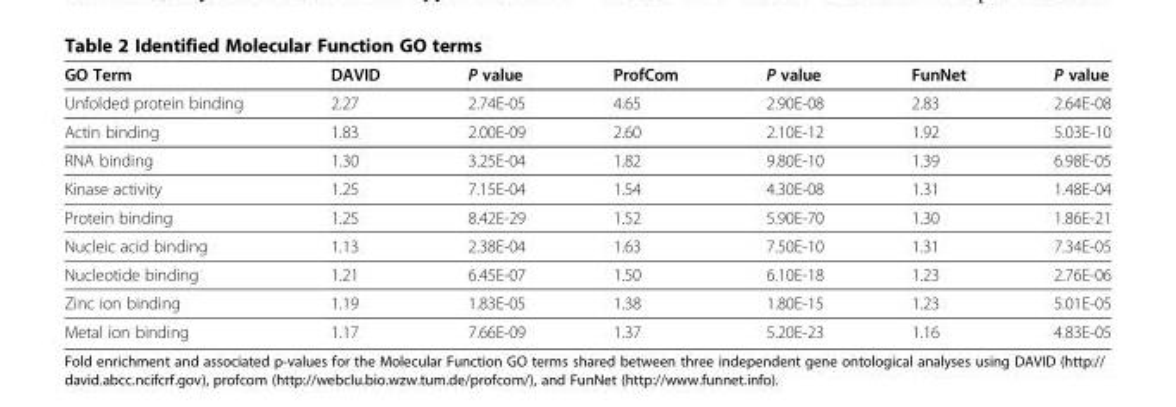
<table><thead><tr><td>GO Term</td><td>DAVID</td><td>P value</td><td>ProfCom</td><td>P value</td><td>FunNet</td><td>P value</td></tr></thead><tbody><tr><td>Unfolded protein binding</td><td>2.27</td><td>2.74E-05</td><td>4.65</td><td>2.90E-08</td><td>2.83</td><td>2.64E-08</td></tr><tr><td>Actin binding</td><td>1.83</td><td>2.00E-09</td><td>2.60</td><td>2.10E-12</td><td>1.92</td><td>5.03E-10</td></tr><tr><td>RNA binding</td><td>1.30</td><td>3.25E-04</td><td>1.82</td><td>9.80E-10</td><td>1.39</td><td>6.98E-05</td></tr><tr><td>Kinase activity</td><td>1.25</td><td>7.15E-04</td><td>1.54</td><td>4.30E-08</td><td>1.31</td><td>1.48E-04</td></tr><tr><td>Protein binding</td><td>1.25</td><td>8.42E-29</td><td>1.52</td><td>5.90E-70</td><td>1.30</td><td>1.86E-21</td></tr><tr><td>Nucleic acid binding</td><td>1.13</td><td>2.38E-04</td><td>1.63</td><td>7.50E-10</td><td>1.31</td><td>7.34E-05</td></tr><tr><td>Nucleotide binding</td><td>1.21</td><td>6.45E-07</td><td>1.50</td><td>6.10E-18</td><td>1.23</td><td>2.76E-06</td></tr><tr><td>Zinc ion binding</td><td>1.19</td><td>1.83E-05</td><td>1.38</td><td>1.80E-15</td><td>1.23</td><td>5.01E-05</td></tr><tr><td>Metal ion binding</td><td>1.17</td><td>7.66E-09</td><td>1.37</td><td>5.20E-23</td><td>1.16</td><td>4.83E-05</td></tr></tbody></table>